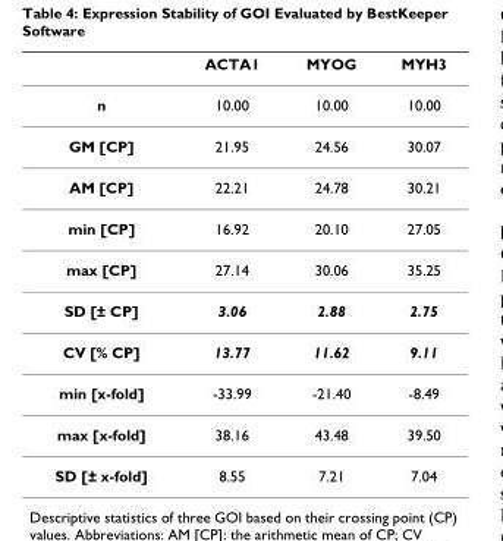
<table><thead><tr><td></td><td>ACTA1</td><td>MYOG</td><td>MYH3</td></tr></thead><tbody><tr><td>n</td><td>10.00</td><td>10.00</td><td>10.00</td></tr><tr><td>GM [CP]</td><td>21.95</td><td>24.56</td><td>30.07</td></tr><tr><td>AM [CP]</td><td>22.21</td><td>24.78</td><td>30.21</td></tr><tr><td>min [CP]</td><td>16.92</td><td>20.10</td><td>27.05</td></tr><tr><td>max [CP]</td><td>27.14</td><td>30.06</td><td>35.25</td></tr><tr><td>SD [± CP]</td><td>3.06</td><td>2.88</td><td>2.75</td></tr><tr><td>CV [% CP]</td><td>13.77</td><td>11.62</td><td>9.11</td></tr><tr><td>min [x-fold]</td><td>-33.99</td><td>-21.40</td><td>-8.49</td></tr><tr><td>max [x-fold]</td><td>38.16</td><td>43.48</td><td>39.50</td></tr><tr><td>SD [± x-fold]</td><td>8.55</td><td>7.21</td><td>7.04</td></tr></tbody></table>